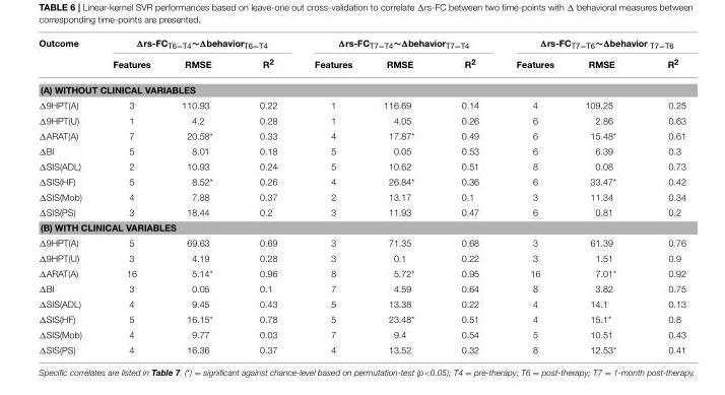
<table><thead><tr><td rowspan="2">Outcome</td><td colspan="3">Δrs-FCT6−T4∼ΔbehaviorT6−T4</td><td colspan="3">Δrs-FCT7−T4∼ΔbehaviorT7−T4</td><td colspan="3">Δrs-FCT7−T6∼Δbehavior T7−T6</td></tr><tr><td>Features</td><td>RMSE</td><td>R2</td><td>Features</td><td>RMSE</td><td>R2</td><td>Features</td><td>RMSE</td><td>R2</td></tr></thead><tbody><tr><td colspan="10">(A) WITHOUT CLINICAL VARIABLES</td></tr><tr><td>Δ9HPT(A)</td><td>3</td><td>110.93</td><td>0.22</td><td>1</td><td>116.69</td><td>0.14</td><td>4</td><td>109.25</td><td>0.25</td></tr><tr><td>Δ9HPT(U)</td><td>1</td><td>4.2</td><td>0.28</td><td>1</td><td>4.05</td><td>0.26</td><td>6</td><td>2.86</td><td>0.63</td></tr><tr><td>ΔARAT(A)</td><td>7</td><td>20.58*</td><td>0.33</td><td>4</td><td>17.87*</td><td>0.49</td><td>6</td><td>15.48*</td><td>0.61</td></tr><tr><td>ΔBI</td><td>5</td><td>8.01</td><td>0.18</td><td>5</td><td>0.05</td><td>0.53</td><td>6</td><td>6.39</td><td>0.3</td></tr><tr><td>ΔSIS(ADL)</td><td>2</td><td>10.93</td><td>0.24</td><td>5</td><td>10.62</td><td>0.51</td><td>8</td><td>0.08</td><td>0.73</td></tr><tr><td>ΔSIS(HF)</td><td>5</td><td>8.52*</td><td>0.26</td><td>4</td><td>26.84*</td><td>0.36</td><td>6</td><td>33.47*</td><td>0.42</td></tr><tr><td>ΔSIS(Mob)</td><td>4</td><td>7.88</td><td>0.37</td><td>2</td><td>13.17</td><td>0.1</td><td>3</td><td>11.34</td><td>0.34</td></tr><tr><td>ΔSIS(PS)</td><td>3</td><td>18.44</td><td>0.2</td><td>3</td><td>11.93</td><td>0.47</td><td>6</td><td>0.81</td><td>0.2</td></tr><tr><td colspan="10">(B) WITH CLINICAL VARIABLES</td></tr><tr><td>Δ9HPT(A)</td><td>5</td><td>69.63</td><td>0.69</td><td>3</td><td>71.35</td><td>0.68</td><td>3</td><td>61.39</td><td>0.76</td></tr><tr><td>Δ9HPT(U)</td><td>3</td><td>4.19</td><td>0.28</td><td>3</td><td>0.1</td><td>0.22</td><td>3</td><td>1.51</td><td>0.9</td></tr><tr><td>ΔARAT(A)</td><td>16</td><td>5.14*</td><td>0.96</td><td>8</td><td>5.72*</td><td>0.95</td><td>16</td><td>7.01*</td><td>0.92</td></tr><tr><td>ΔBI</td><td>3</td><td>0.05</td><td>0.1</td><td>7</td><td>4.59</td><td>0.64</td><td>8</td><td>3.82</td><td>0.75</td></tr><tr><td>ΔSIS(ADL)</td><td>4</td><td>9.45</td><td>0.43</td><td>5</td><td>13.38</td><td>0.22</td><td>4</td><td>14.1</td><td>0.13</td></tr><tr><td>ΔSIS(HF)</td><td>5</td><td>16.15*</td><td>0.78</td><td>5</td><td>23.48*</td><td>0.51</td><td>4</td><td>15.1*</td><td>0.8</td></tr><tr><td>ΔSIS(Mob)</td><td>4</td><td>9.77</td><td>0.03</td><td>7</td><td>9.4</td><td>0.54</td><td>5</td><td>10.51</td><td>0.43</td></tr><tr><td>ΔSIS(PS)</td><td>4</td><td>16.36</td><td>0.37</td><td>4</td><td>13.52</td><td>0.32</td><td>8</td><td>12.53*</td><td>0.41</td></tr></tbody></table>